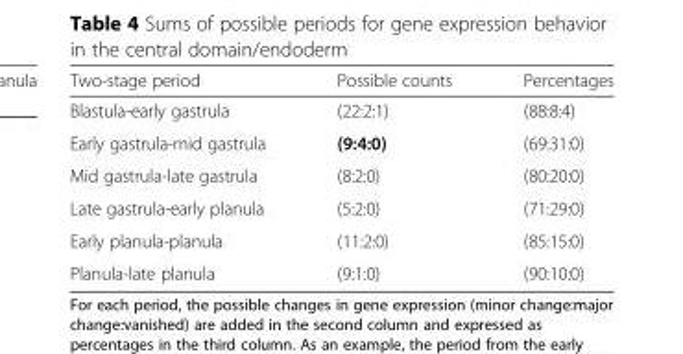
<table><thead><tr><td>Two-stage period</td><td>Possible counts</td><td>Percentages</td></tr></thead><tbody><tr><td>Blastula-early gastrula</td><td>(22:2:1)</td><td>(88:8:4)</td></tr><tr><td>Early gastrula-mid gastrula</td><td>(9:4:0)</td><td>(69:31:0)</td></tr><tr><td>Mid gastrula-late gastrula</td><td>(8:2:0)</td><td>(80:20:0)</td></tr><tr><td>Late gastrula-early planula</td><td>(5:2:0)</td><td>(71:29:0)</td></tr><tr><td>Early planula-planula</td><td>(11:2:0)</td><td>(85:15:0)</td></tr><tr><td>Planula-late planula</td><td>(9:1:0)</td><td>(90:10:0)</td></tr></tbody></table>